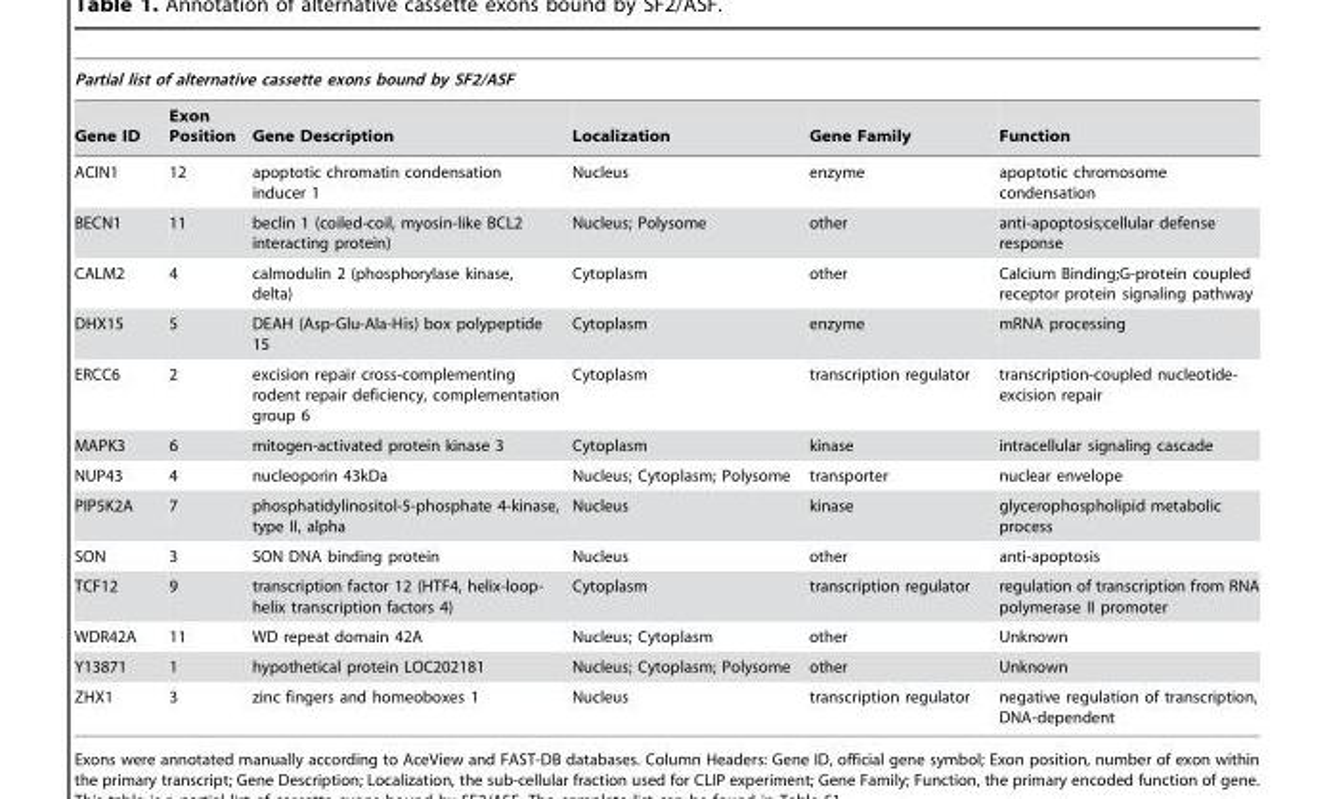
<table><thead><tr><td colspan="6">Partial list of alternative cassette exons bound by SF2/ASF</td></tr><tr><td>Gene ID</td><td>Exon Position</td><td>Gene Description</td><td>Localization</td><td>Gene Family</td><td>Function</td></tr></thead><tbody><tr><td>ACIN1</td><td>12</td><td>apoptotic chromatin condensation inducer 1</td><td>Nucleus</td><td>enzyme</td><td>apoptotic chromosome condensation</td></tr><tr><td>BECN1</td><td>11</td><td>beclin 1 (coiled-coil, myosin-like BCL2 interacting protein)</td><td>Nucleus; Polysome</td><td>other</td><td>anti-apoptosis;cellular defense response</td></tr><tr><td>CALM2</td><td>4</td><td>calmodulin 2 (phosphorylase kinase, delta)</td><td>Cytoplasm</td><td>other</td><td>Calcium Binding;G-protein coupled receptor protein signaling pathway</td></tr><tr><td>DHX15</td><td>5</td><td>DEAH (Asp-Glu-Ala-His) box polypeptide 15</td><td>Cytoplasm</td><td>enzyme</td><td>mRNA processing</td></tr><tr><td>ERCC6</td><td>2</td><td>excision repair cross-complementing rodent repair deficiency, complementation group 6</td><td>Cytoplasm</td><td>transcription regulator</td><td>transcription-coupled nucleotide- excision repair</td></tr><tr><td>MAPK3</td><td>6</td><td>mitogen-activated protein kinase 3</td><td>Cytoplasm</td><td>kinase</td><td>intracellular signaling cascade</td></tr><tr><td>NUP43</td><td>4</td><td>nucleoporin 43kDa</td><td>Nucleus; Cytoplasm; Polysome</td><td>transporter</td><td>nuclear envelope</td></tr><tr><td>PIP5K2A</td><td>7</td><td>phosphatidylinositol-5-phosphate 4-kinase, type II, alpha</td><td>Nucleus</td><td>kinase</td><td>glycerophospholipid metabolic process</td></tr><tr><td>SON</td><td>3</td><td>SON DNA binding protein</td><td>Nucleus</td><td>other</td><td>anti-apoptosis</td></tr><tr><td>TCF12</td><td>9</td><td>transcription factor 12 (HTF4, helix-loop- helix transcription factors 4)</td><td>Cytoplasm</td><td>transcription regulator</td><td>regulation of transcription from RNA polymerase II promoter</td></tr><tr><td>WDR42A</td><td>11</td><td>WD repeat domain 42A</td><td>Nucleus; Cytoplasm</td><td>other</td><td>Unknown</td></tr><tr><td>Y13871</td><td>1</td><td>hypothetical protein LOC202181</td><td>Nucleus; Cytoplasm; Polysome</td><td>other</td><td>Unknown</td></tr><tr><td>ZHX1</td><td>3</td><td>zinc fingers and homeoboxes 1</td><td>Nucleus</td><td>transcription regulator</td><td>negative regulation of transcription, DNA-dependent</td></tr></tbody></table>